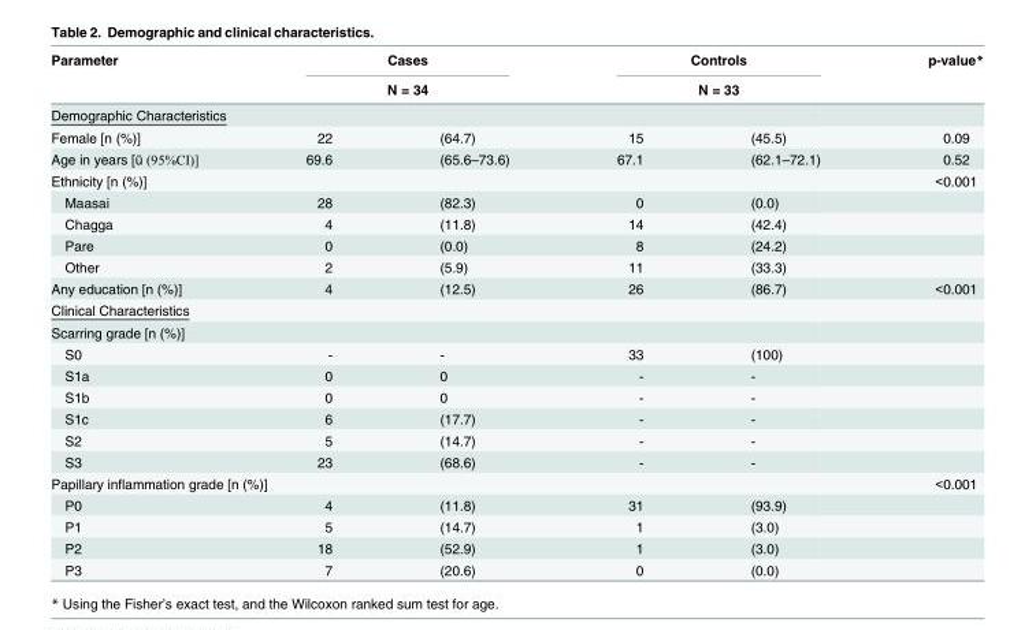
<table><thead><tr><td rowspan="2">Parameter</td><td rowspan="2" colspan="2">Cases N = 34</td><td rowspan="2" colspan="2">Controls N = 33</td><td rowspan="4">p-value* 0.09</td></tr><tr></tr><tr><td colspan="3">Demographic Characteristics</td><td rowspan="2">15</td><td rowspan="2">(45.5)</td></tr><tr><td>Female [n (%)]</td><td>22</td><td>(64.7)</td></tr></thead><tbody><tr><td>Age in years [ū (95%CI)]</td><td>69.6</td><td>(65.6–73.6)</td><td>67.1</td><td>(62.1–72.1)</td><td>0.52</td></tr><tr><td>Ethnicity [n (%)]</td><td></td><td></td><td></td><td></td><td>&lt;0.001</td></tr><tr><td>Maasai</td><td>28</td><td>(82.3)</td><td>0</td><td>(0.0)</td><td></td></tr><tr><td>Chagga</td><td>4</td><td>(11.8)</td><td>14</td><td>(42.4)</td><td></td></tr><tr><td>Pare</td><td>0</td><td>(0.0)</td><td>8</td><td>(24.2)</td><td></td></tr><tr><td>Other</td><td>2</td><td>(5.9)</td><td>11</td><td>(33.3)</td><td></td></tr><tr><td>Any education [n (%)]</td><td>4</td><td>(12.5)</td><td>26</td><td>(86.7)</td><td>&lt;0.001</td></tr><tr><td colspan="6">Clinical Characteristics</td></tr><tr><td colspan="6">Scarring grade [n (%)]</td></tr><tr><td>S0</td><td>-</td><td>-</td><td>33</td><td>(100)</td><td></td></tr><tr><td>S1a</td><td>0</td><td>0</td><td>-</td><td>-</td><td></td></tr><tr><td>S1b</td><td>0</td><td>0</td><td>-</td><td>-</td><td></td></tr><tr><td>S1c</td><td>6</td><td>(17.7)</td><td>-</td><td>-</td><td></td></tr><tr><td>S2</td><td>5</td><td>(14.7)</td><td>-</td><td>-</td><td></td></tr><tr><td>S3</td><td>23</td><td>(68.6)</td><td>-</td><td>-</td><td></td></tr><tr><td colspan="2">Papillary inflammation grade [n (%)]</td><td></td><td></td><td></td><td>&lt;0.001</td></tr><tr><td>P0</td><td>4</td><td>(11.8)</td><td>31</td><td>(93.9)</td><td></td></tr><tr><td>P1</td><td>5</td><td>(14.7)</td><td>1</td><td>(3.0)</td><td></td></tr><tr><td>P2</td><td>18</td><td>(52.9)</td><td>1</td><td>(3.0)</td><td></td></tr><tr><td>P3</td><td>7</td><td>(20.6)</td><td>0</td><td>(0.0)</td><td></td></tr></tbody></table>